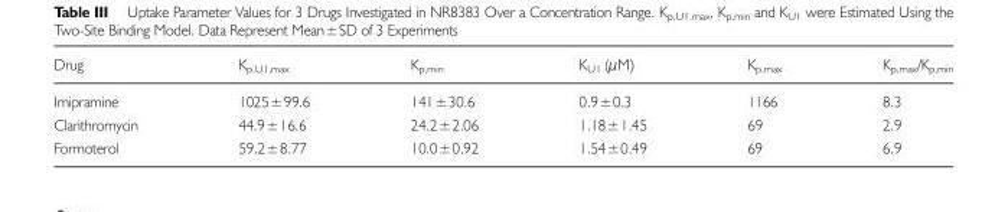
<table><thead><tr><td>Drug</td><td>K<sub>p,U1,max</sub></td><td>K<sub>p,min</sub></td><td>K<sub>U1</sub> (μM)</td><td>K<sub>p,max</sub></td><td>K<sub>p,max</sub>/K<sub>p,min</sub></td></tr></thead><tbody><tr><td>Imipramine</td><td>1025±99.6</td><td>141±30.6</td><td>0.9±0.3</td><td>1166</td><td>8.3</td></tr><tr><td>Clarithromycin</td><td>44.9±16.6</td><td>24.2±2.06</td><td>1.18±1.45</td><td>69</td><td>2.9</td></tr><tr><td>Formoterol</td><td>59.2±8.77</td><td>10.0±0.92</td><td>1.54±0.49</td><td>69</td><td>6.9</td></tr></tbody></table>